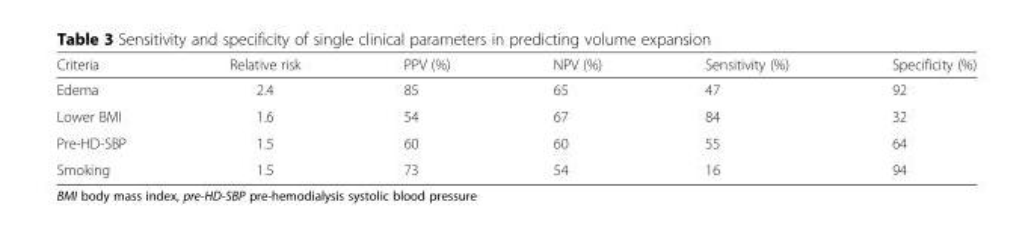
<table><thead><tr><td>Criteria</td><td>Relative risk</td><td>PPV (%)</td><td>NPV (%)</td><td>Sensitivity (%)</td><td>Specificity (%)</td></tr></thead><tbody><tr><td>Edema</td><td>2.4</td><td>85</td><td>65</td><td>47</td><td>92</td></tr><tr><td>Lower BMI</td><td>1.6</td><td>54</td><td>67</td><td>84</td><td>32</td></tr><tr><td>Pre-HD-SBP</td><td>1.5</td><td>60</td><td>60</td><td>55</td><td>64</td></tr><tr><td>Smoking</td><td>1.5</td><td>73</td><td>54</td><td>16</td><td>94</td></tr></tbody></table>